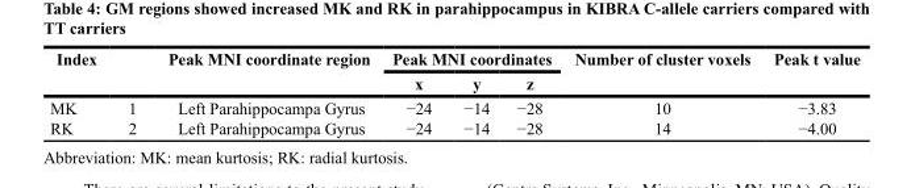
<table><thead><tr><td rowspan="2">Index</td><td rowspan="2"></td><td rowspan="2">Peak MNI coordinate region</td><td colspan="3">Peak MNI coordinates</td><td rowspan="2">Number of cluster voxels</td><td rowspan="2">Peak t value</td></tr><tr><td>x</td><td>y</td><td>z</td></tr></thead><tbody><tr><td>MK RK</td><td>1 2</td><td>Left Parahippocampa Gyrus Left Parahippocampa Gyrus</td><td>−24 −24</td><td>−14 −14</td><td>−28 −28</td><td>10 14</td><td>−3.83 −4.00</td></tr></tbody></table>